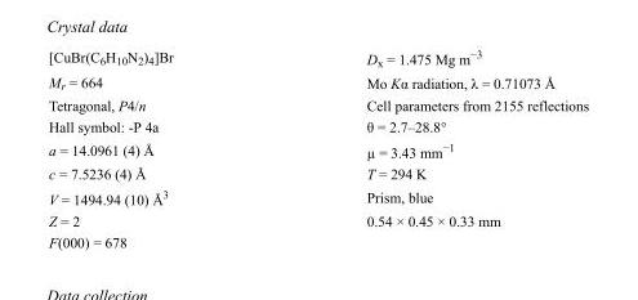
<table><tbody><tr><td>[CuBr(C<sub>6</sub>H<sub>10</sub>N<sub>2</sub>)<sub>4</sub>]Br</td><td>D<sub>x</sub> = 1.475 Mg m<sup>−3</sup></td></tr><tr><td>M<sub>r</sub> = 664</td><td>Mo Kα radiation, λ = 0.71073 Å</td></tr><tr><td>Tetragonal, P4/n</td><td>Cell parameters from 2155 reflections</td></tr><tr><td>Hall symbol: -P 4a</td><td>θ = 2.7–28.8°</td></tr><tr><td>a = 14.0961 (4) Å</td><td>µ = 3.43 mm<sup>−1</sup></td></tr><tr><td>c = 7.5236 (4) Å</td><td>T = 294 K</td></tr><tr><td>V = 1494.94 (10) Å<sup>3</sup></td><td>Prism, blue</td></tr><tr><td>Z = 2</td><td>0.54 × 0.45 × 0.33 mm</td></tr><tr><td>F(000) = 678</td><td></td></tr></tbody></table>